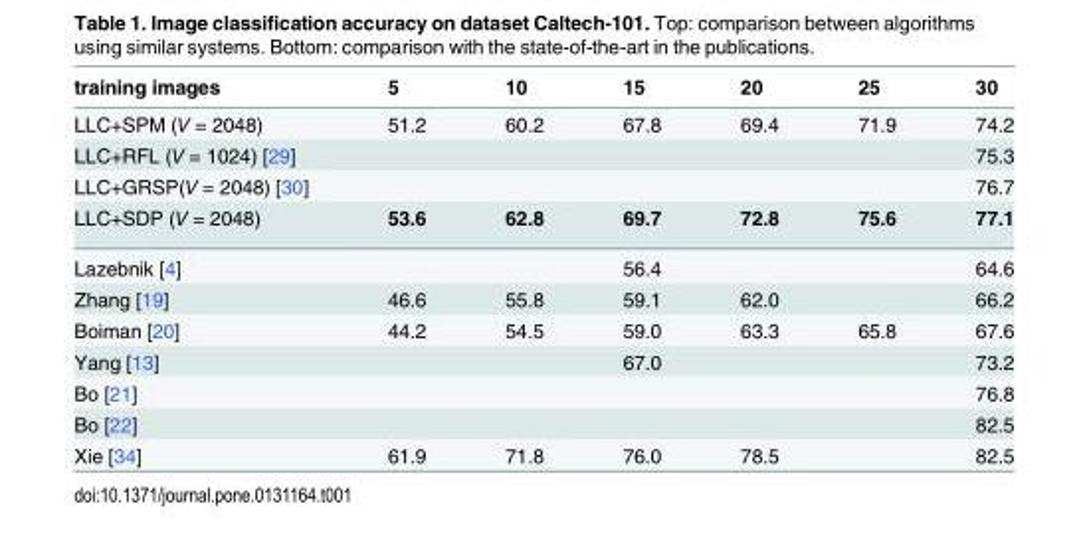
<table><thead><tr><td>training images</td><td>5</td><td>10</td><td>15</td><td>20</td><td>25</td><td>30</td></tr></thead><tbody><tr><td>LLC+SPM (V = 2048)</td><td>51.2</td><td>60.2</td><td>67.8</td><td>69.4</td><td>71.9</td><td>74.2</td></tr><tr><td>LLC+RFL (V = 1024) [29]</td><td></td><td></td><td></td><td></td><td></td><td>75.3</td></tr><tr><td>LLC+GRSP(V = 2048) [30]</td><td></td><td></td><td></td><td></td><td></td><td>76.7</td></tr><tr><td>LLC+SDP (V = 2048)</td><td>53.6</td><td>62.8</td><td>69.7</td><td>72.8</td><td>75.6</td><td>77.1</td></tr><tr><td>Lazebnik [4]</td><td></td><td></td><td>56.4</td><td></td><td></td><td>64.6</td></tr><tr><td>Zhang [19]</td><td>46.6</td><td>55.8</td><td>59.1</td><td>62.0</td><td></td><td>66.2</td></tr><tr><td>Boiman [20]</td><td>44.2</td><td>54.5</td><td>59.0</td><td>63.3</td><td>65.8</td><td>67.6</td></tr><tr><td>Yang [13]</td><td></td><td></td><td>67.0</td><td></td><td></td><td>73.2</td></tr><tr><td>Bo [21]</td><td></td><td></td><td></td><td></td><td></td><td>76.8</td></tr><tr><td>Bo [22]</td><td></td><td></td><td></td><td></td><td></td><td>82.5</td></tr><tr><td>Xie [34]</td><td>61.9</td><td>71.8</td><td>76.0</td><td>78.5</td><td></td><td>82.5</td></tr></tbody></table>